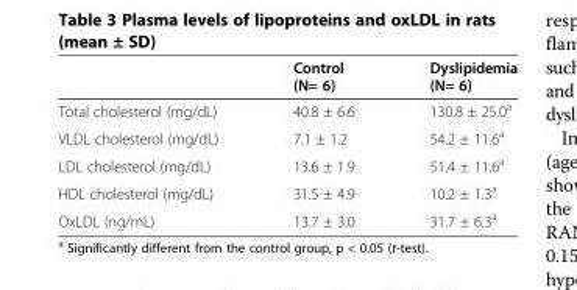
<table><thead><tr><td></td><td>Control (N= 6)</td><td>Dyslipidemia (N= 6)</td></tr></thead><tbody><tr><td>Total cholesterol (mg/dL)</td><td>40.8 ± 6.6</td><td>130.8 ± 25.0<sup>a</sup></td></tr><tr><td>VLDL cholesterol (mg/dL)</td><td>7.1 ± 1.2</td><td>54.2 ± 11.6<sup>a</sup></td></tr><tr><td>LDL cholesterol (mg/dL)</td><td>13.6 ± 1.9</td><td>51.4 ± 11.6<sup>a</sup></td></tr><tr><td>HDL cholesterol (mg/dL)</td><td>31.5 ± 4.9</td><td>10.2 ± 1.3<sup>a</sup></td></tr><tr><td>OxLDL (ng/mL)</td><td>13.7 ± 3.0</td><td>31.7 ± 6.3<sup>a</sup></td></tr></tbody></table>